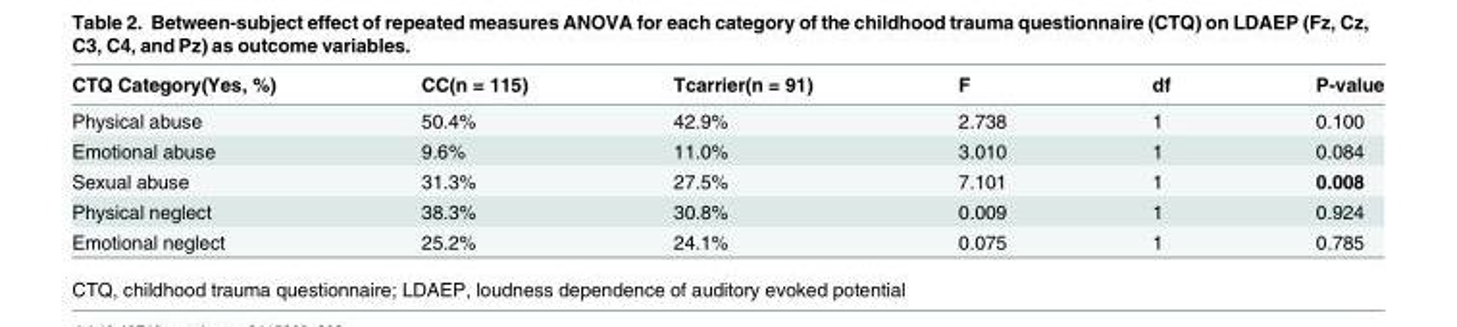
<table><thead><tr><td>CTQ Category(Yes, %)</td><td>CC(n = 115)</td><td>Tcarrier(n = 91)</td><td>F</td><td>df</td><td>P-value</td></tr></thead><tbody><tr><td>Physical abuse</td><td>50.4%</td><td>42.9%</td><td>2.738</td><td>1</td><td>0.100</td></tr><tr><td>Emotional abuse</td><td>9.6%</td><td>11.0%</td><td>3.010</td><td>1</td><td>0.084</td></tr><tr><td>Sexual abuse</td><td>31.3%</td><td>27.5%</td><td>7.101</td><td>1</td><td>0.008</td></tr><tr><td>Physical neglect</td><td>38.3%</td><td>30.8%</td><td>0.009</td><td>1</td><td>0.924</td></tr><tr><td>Emotional neglect</td><td>25.2%</td><td>24.1%</td><td>0.075</td><td>1</td><td>0.785</td></tr></tbody></table>